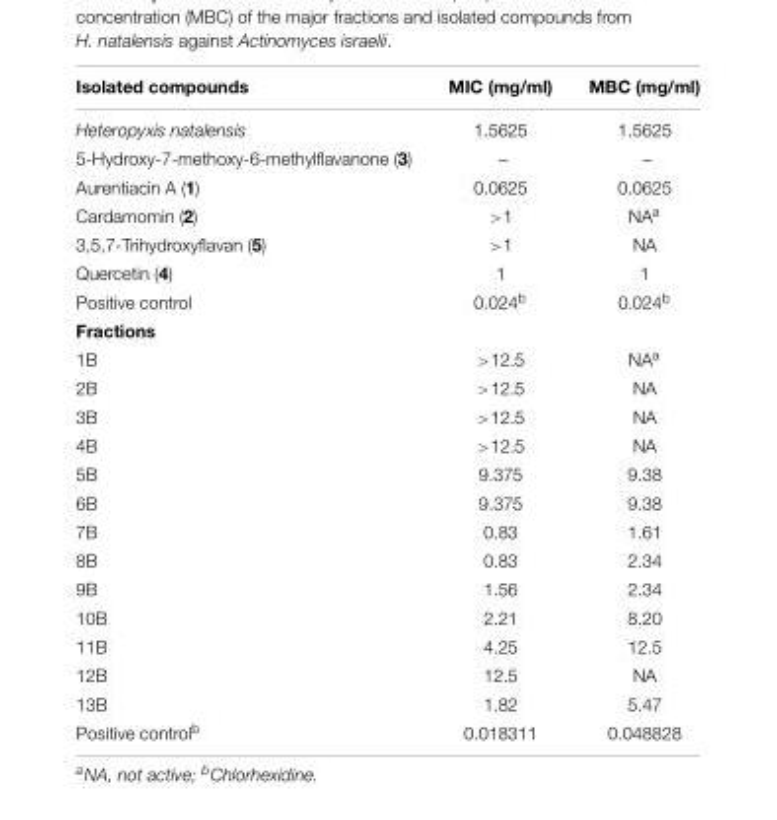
<table><thead><tr><td>Isolated compounds</td><td>MIC (mg/ml)</td><td>MBC (mg/ml)</td></tr></thead><tbody><tr><td>Heteropyxis natalensis</td><td>1.5625</td><td>1.5625</td></tr><tr><td>5-Hydroxy-7-methoxy-6-methylflavanone (3)</td><td>–</td><td>–</td></tr><tr><td>Aurentiacin A (1)</td><td>0.0625</td><td>0.0625</td></tr><tr><td>Cardamomin (2)</td><td>&gt;1</td><td>NA<sup>a</sup></td></tr><tr><td>3,5,7-Trihydroxyflavan (5)</td><td>&gt;1</td><td>NA</td></tr><tr><td>Quercetin (4)</td><td>1</td><td>1</td></tr><tr><td>Positive control</td><td>0.024<sup>b</sup></td><td>0.024<sup>b</sup></td></tr><tr><td colspan="3">Fractions</td></tr><tr><td>1B</td><td>&gt;12.5</td><td>NA<sup>a</sup></td></tr><tr><td>2B</td><td>&gt;12.5</td><td>NA</td></tr><tr><td>3B</td><td>&gt;12.5</td><td>NA</td></tr><tr><td>4B</td><td>&gt;12.5</td><td>NA</td></tr><tr><td>5B</td><td>9.375</td><td>9.38</td></tr><tr><td>6B</td><td>9.375</td><td>9.38</td></tr><tr><td>7B</td><td>0.83</td><td>1.61</td></tr><tr><td>8B</td><td>0.83</td><td>2.34</td></tr><tr><td>9B</td><td>1.56</td><td>2.34</td></tr><tr><td>10B</td><td>2.21</td><td>8.20</td></tr><tr><td>11B</td><td>4.25</td><td>12.5</td></tr><tr><td>12B</td><td>12.5</td><td>NA</td></tr><tr><td>13B</td><td>1.82</td><td>5.47</td></tr><tr><td>Positive control<sup>b</sup></td><td>0.018311</td><td>0.048828</td></tr></tbody></table>